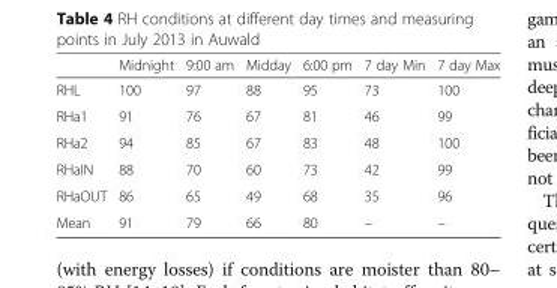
<table><thead><tr><td></td><td>Midnight</td><td>9:00 am</td><td>Midday</td><td>6:00 pm</td><td>7 day Min</td><td>7 day Max</td></tr></thead><tbody><tr><td>RHL</td><td>100</td><td>97</td><td>88</td><td>95</td><td>73</td><td>100</td></tr><tr><td>RHa1</td><td>91</td><td>76</td><td>67</td><td>81</td><td>46</td><td>99</td></tr><tr><td>RHa2</td><td>94</td><td>85</td><td>67</td><td>83</td><td>48</td><td>100</td></tr><tr><td>RHaIN</td><td>88</td><td>70</td><td>60</td><td>73</td><td>42</td><td>99</td></tr><tr><td>RHaOUT</td><td>86</td><td>65</td><td>49</td><td>68</td><td>35</td><td>96</td></tr><tr><td>Mean</td><td>91</td><td>79</td><td>66</td><td>80</td><td>–</td><td>–</td></tr></tbody></table>